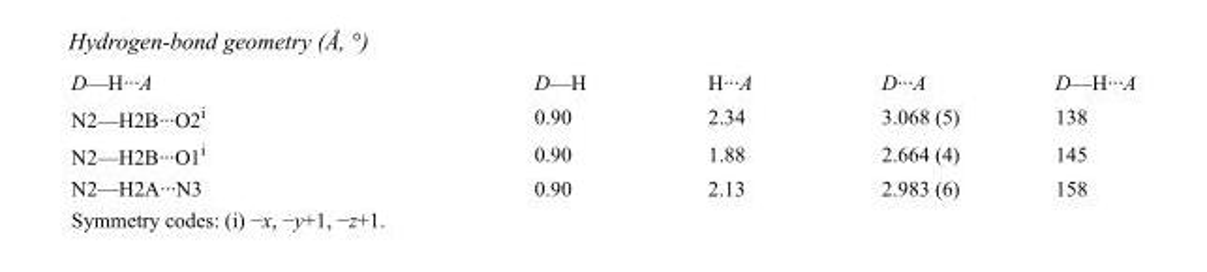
<table><tbody><tr><td>D—H···A</td><td>D—H</td><td>H···A</td><td>D···A</td><td>D—H···A</td></tr><tr><td>N2—H2B···O2<sup>i</sup></td><td>0.90</td><td>2.34</td><td>3.068 (5)</td><td>138</td></tr><tr><td>N2—H2B···O1<sup>i</sup></td><td>0.90</td><td>1.88</td><td>2.664 (4)</td><td>145</td></tr><tr><td>N2—H2A···N3</td><td>0.90</td><td>2.13</td><td>2.983 (6)</td><td>158</td></tr></tbody></table>